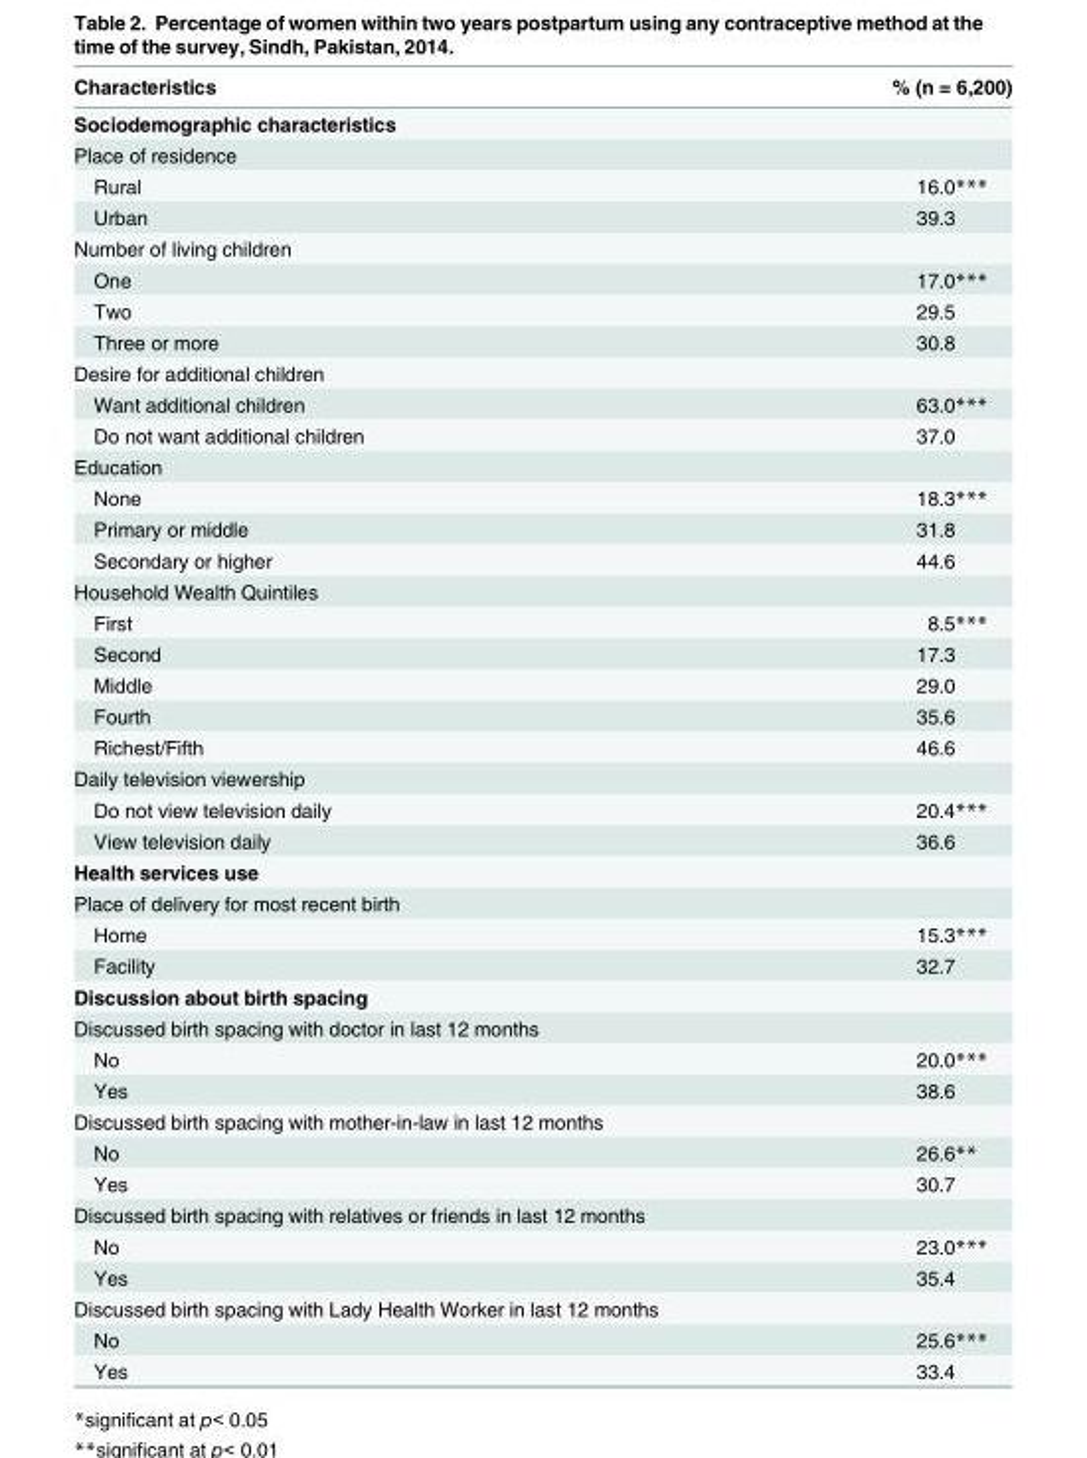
<table><thead><tr><td>Characteristics</td><td>% (n = 6,200)</td></tr></thead><tbody><tr><td colspan="2">Sociodemographic characteristics</td></tr><tr><td colspan="2">Place of residence</td></tr><tr><td>Rural</td><td>16.0***</td></tr><tr><td>Urban</td><td>39.3</td></tr><tr><td colspan="2">Number of living children</td></tr><tr><td>One</td><td>17.0***</td></tr><tr><td>Two</td><td>29.5</td></tr><tr><td>Three or more</td><td>30.8</td></tr><tr><td colspan="2">Desire for additional children</td></tr><tr><td>Want additional children</td><td>63.0***</td></tr><tr><td>Do not want additional children</td><td>37.0</td></tr><tr><td colspan="2">Education</td></tr><tr><td>None</td><td>18.3***</td></tr><tr><td>Primary or middle</td><td>31.8</td></tr><tr><td>Secondary or higher</td><td>44.6</td></tr><tr><td colspan="2">Household Wealth Quintiles</td></tr><tr><td>First</td><td>8.5***</td></tr><tr><td>Second</td><td>17.3</td></tr><tr><td>Middle</td><td>29.0</td></tr><tr><td>Fourth</td><td>35.6</td></tr><tr><td>Richest/Fifth</td><td>46.6</td></tr><tr><td colspan="2">Daily television viewership</td></tr><tr><td>Do not view television daily</td><td>20.4***</td></tr><tr><td>View television daily</td><td>36.6</td></tr><tr><td colspan="2">Health services use</td></tr><tr><td colspan="2">Place of delivery for most recent birth</td></tr><tr><td>Home</td><td>15.3***</td></tr><tr><td>Facility</td><td>32.7</td></tr><tr><td colspan="2">Discussion about birth spacing</td></tr><tr><td colspan="2">Discussed birth spacing with doctor in last 12 months</td></tr><tr><td>No</td><td>20.0***</td></tr><tr><td>Yes</td><td>38.6</td></tr><tr><td colspan="2">Discussed birth spacing with mother-in-law in last 12 months</td></tr><tr><td>No</td><td>26.6**</td></tr><tr><td>Yes</td><td>30.7</td></tr><tr><td colspan="2">Discussed birth spacing with relatives or friends in last 12 months</td></tr><tr><td>No</td><td>23.0***</td></tr><tr><td>Yes</td><td>35.4</td></tr><tr><td colspan="2">Discussed birth spacing with Lady Health Worker in last 12 months</td></tr><tr><td>No</td><td>25.6***</td></tr><tr><td>Yes</td><td>33.4</td></tr></tbody></table>